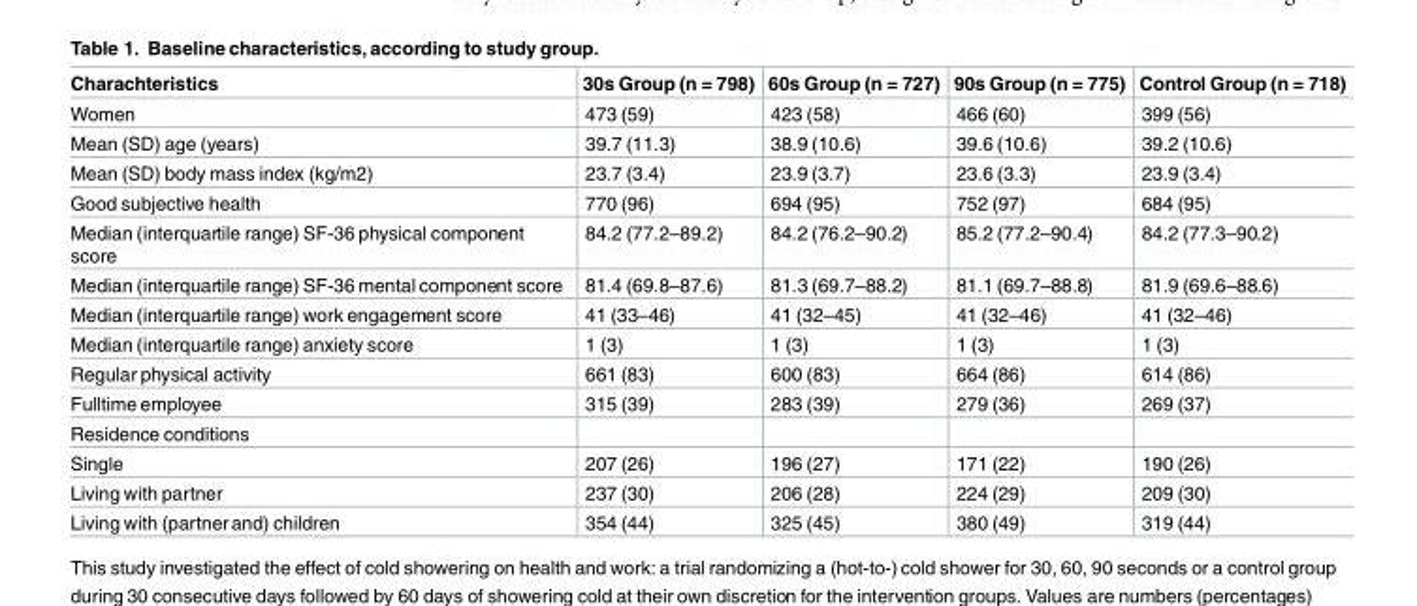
<table><thead><tr><td>Charachteristics</td><td>30s Group (n = 798)</td><td>60s Group (n = 727)</td><td>90s Group (n = 775)</td><td>Control Group (n = 718)</td></tr></thead><tbody><tr><td>Women</td><td>473 (59)</td><td>423 (58)</td><td>466 (60)</td><td>399 (56)</td></tr><tr><td>Mean (SD) age (years)</td><td>39.7 (11.3)</td><td>38.9 (10.6)</td><td>39.6 (10.6)</td><td>39.2 (10.6)</td></tr><tr><td>Mean (SD) body mass index (kg/m2)</td><td>23.7 (3.4)</td><td>23.9 (3.7)</td><td>23.6 (3.3)</td><td>23.9 (3.4)</td></tr><tr><td>Good subjective health</td><td>770 (96)</td><td>694 (95)</td><td>752 (97)</td><td>684 (95)</td></tr><tr><td>Median (interquartile range) SF-36 physical component score</td><td>84.2 (77.2–89.2)</td><td>84.2 (76.2–90.2)</td><td>85.2 (77.2–90.4)</td><td>84.2 (77.3–90.2)</td></tr><tr><td>Median (interquartile range) SF-36 mental component score</td><td>81.4 (69.8–87.6)</td><td>81.3 (69.7–88.2)</td><td>81.1 (69.7–88.8)</td><td>81.9 (69.6–88.6)</td></tr><tr><td>Median (interquartile range) work engagement score</td><td>41 (33–46)</td><td>41 (32–45)</td><td>41 (32–46)</td><td>41 (32–46)</td></tr><tr><td>Median (interquartile range) anxiety score</td><td>1 (3)</td><td>1 (3)</td><td>1 (3)</td><td>1 (3)</td></tr><tr><td>Regular physical activity</td><td>661 (83)</td><td>600 (83)</td><td>664 (86)</td><td>614 (86)</td></tr><tr><td>Fulltime employee</td><td>315 (39)</td><td>283 (39)</td><td>279 (36)</td><td>269 (37)</td></tr><tr><td colspan="5">Residence conditions</td></tr><tr><td>Single</td><td>207 (26)</td><td>196 (27)</td><td>171 (22)</td><td>190 (26)</td></tr><tr><td>Living with partner</td><td>237 (30)</td><td>206 (28)</td><td>224 (29)</td><td>209 (30)</td></tr><tr><td>Living with (partnerand) children</td><td>354 (44)</td><td>325 (45)</td><td>380 (49)</td><td>319 (44)</td></tr></tbody></table>